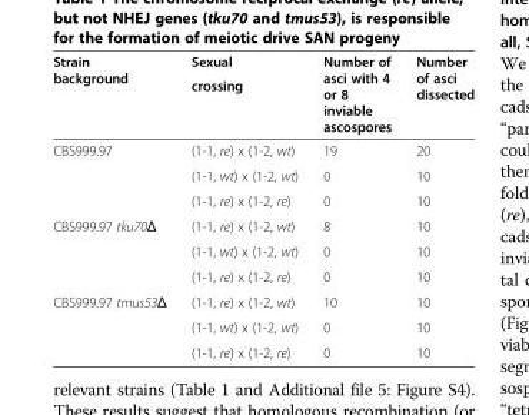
<table><thead><tr><td rowspan="2">Strain background</td><td rowspan="2">Sexual crossing</td><td rowspan="2">Number of asci with 4 or 8 inviable ascospores</td><td rowspan="2">Number of asci dissected</td></tr><tr></tr></thead><tbody><tr><td rowspan="3">CBS999.97</td><td>(1-1, re) x (1-2, wt)</td><td>19</td><td>20</td></tr><tr><td>(1-1, wt) x (1-2, wt)</td><td>0</td><td>10</td></tr><tr><td>(1-1, re) x (1-2, re)</td><td>0</td><td>10</td></tr><tr><td rowspan="3">CBS999.97 tku70Δ</td><td>(1-1, re) x (1-2, wt)</td><td>8</td><td>10</td></tr><tr><td>(1-1, wt) x (1-2, wt)</td><td>0</td><td>10</td></tr><tr><td>(1-1, re) x (1-2, re)</td><td>0</td><td>10</td></tr><tr><td rowspan="3">CBS999.97 tmus53Δ</td><td>(1-1, re) x (1-2, wt)</td><td>10</td><td>10</td></tr><tr><td>(1-1, wt) x (1-2, wt)</td><td>0</td><td>10</td></tr><tr><td>(1-1, re) x (1-2, re)</td><td>0</td><td>10</td></tr></tbody></table>